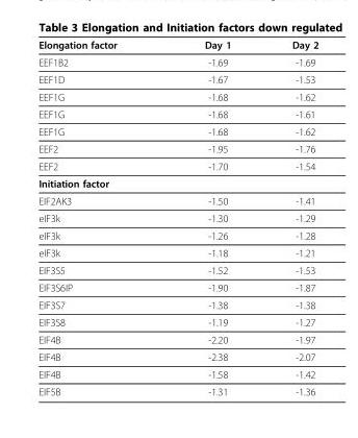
<table><thead><tr><td>Elongation factor</td><td>Day 1</td><td>Day 2</td></tr></thead><tbody><tr><td>EEF1B2</td><td>-1.69</td><td>-1.69</td></tr><tr><td>EEF1D</td><td>-1.67</td><td>-1.53</td></tr><tr><td>EEF1G</td><td>-1.68</td><td>-1.62</td></tr><tr><td>EEF1G</td><td>-1.68</td><td>-1.61</td></tr><tr><td>EEF1G</td><td>-1.68</td><td>-1.62</td></tr><tr><td>EEF2</td><td>-1.95</td><td>-1.76</td></tr><tr><td>EEF2</td><td>-1.70</td><td>-1.54</td></tr><tr><td colspan="3">Initiation factor</td></tr><tr><td>EIF2AK3</td><td>-1.50</td><td>-1.41</td></tr><tr><td>eIF3k</td><td>-1.30</td><td>-1.29</td></tr><tr><td>eIF3k</td><td>-1.26</td><td>-1.28</td></tr><tr><td>eIF3k</td><td>-1.18</td><td>-1.21</td></tr><tr><td>EIF3S5</td><td>-1.52</td><td>-1.53</td></tr><tr><td>EIF3S6IP</td><td>-1.90</td><td>-1.87</td></tr><tr><td>EIF3S7</td><td>-1.38</td><td>-1.38</td></tr><tr><td>EIF3S8</td><td>-1.19</td><td>-1.27</td></tr><tr><td>EIF4B</td><td>-2.20</td><td>-1.97</td></tr><tr><td>EIF4B</td><td>-2.38</td><td>-2.07</td></tr><tr><td>EIF4B</td><td>-1.58</td><td>-1.42</td></tr><tr><td>EIF5B</td><td>-1.31</td><td>-1.36</td></tr></tbody></table>